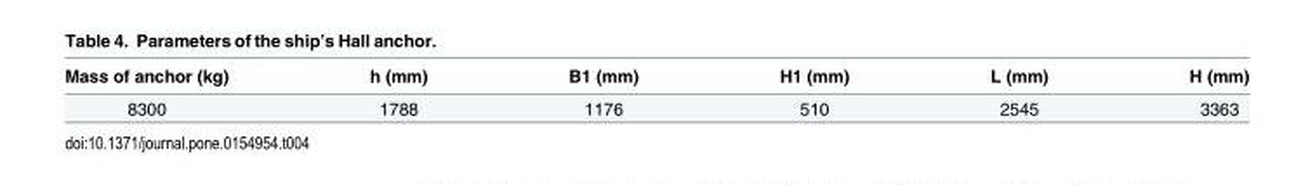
<table><thead><tr><td>Mass of anchor (kg)</td><td>h (mm)</td><td>B1 (mm)</td><td>H1 (mm)</td><td>L (mm)</td><td>H (mm)</td></tr></thead><tbody><tr><td>8300</td><td>1788</td><td>1176</td><td>510</td><td>2545</td><td>3363</td></tr></tbody></table>